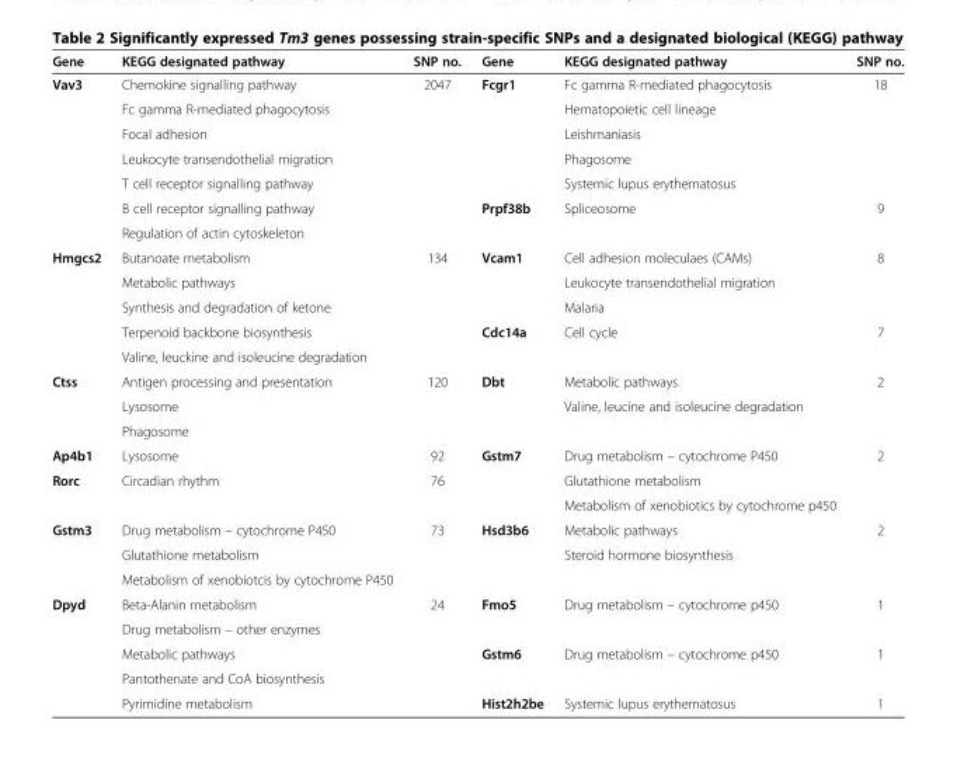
<table><thead><tr><td>Gene</td><td>KEGG designated pathway</td><td>SNP no.</td><td>Gene</td><td>KEGG designated pathway</td><td>SNP no.</td></tr></thead><tbody><tr><td rowspan="7">Vav3</td><td>Chemokine signalling pathway</td><td>2047</td><td>Fcgr1</td><td>Fc gamma R-mediated phagocytosis</td><td>18</td></tr><tr><td>Fc gamma R-mediated phagocytosis</td><td></td><td></td><td>Hematopoietic cell lineage</td><td></td></tr><tr><td>Focal adhesion</td><td></td><td></td><td>Leishmaniasis</td><td></td></tr><tr><td>Leukocyte transendothelial migration</td><td></td><td></td><td>Phagosome</td><td></td></tr><tr><td>T cell receptor signalling pathway</td><td></td><td></td><td>Systemic lupus erythematosus</td><td></td></tr><tr><td>B cell receptor signalling pathway</td><td></td><td>Prpf38b</td><td>Spliceosome</td><td>9</td></tr><tr><td>Regulation of actin cytoskeleton</td><td></td><td></td><td></td><td></td></tr><tr><td rowspan="5">Hmgcs2</td><td>Butanoate metabolism</td><td>134</td><td>Vcam1</td><td>Cell adhesion moleculaes (CAMs)</td><td>8</td></tr><tr><td>Metabolic pathways</td><td></td><td></td><td>Leukocyte transendothelial migration</td><td></td></tr><tr><td>Synthesis and degradation of ketone</td><td></td><td></td><td>Malaria</td><td></td></tr><tr><td>Terpenoid backbone biosynthesis</td><td></td><td>Cdc14a</td><td>Cell cycle</td><td>7</td></tr><tr><td>Valine, leuckine and isoleucine degradation</td><td></td><td></td><td></td><td></td></tr><tr><td rowspan="3">Ctss</td><td>Antigen processing and presentation</td><td>120</td><td>Dbt</td><td>Metabolic pathways</td><td>2</td></tr><tr><td>Lysosome</td><td></td><td></td><td>Valine, leucine and isoleucine degradation</td><td></td></tr><tr><td>Phagosome</td><td></td><td></td><td></td><td></td></tr><tr><td>Ap4b1</td><td>Lysosome</td><td>92</td><td>Gstm7</td><td>Drug metabolism – cytochrome P450</td><td>2</td></tr><tr><td rowspan="2">Rorc</td><td>Circadian rhythm</td><td>76</td><td></td><td>Glutathione metabolism</td><td></td></tr><tr><td></td><td></td><td></td><td>Metabolism of xenobiotics by cytochrome p450</td><td></td></tr><tr><td rowspan="3">Gstm3</td><td>Drug metabolism – cytochrome P450</td><td>73</td><td>Hsd3b6</td><td>Metabolic pathways</td><td>2</td></tr><tr><td>Glutathione metabolism</td><td></td><td></td><td>Steroid hormone biosynthesis</td><td></td></tr><tr><td>Metabolism of xenobiotcis by cytochrome P450</td><td></td><td></td><td></td><td></td></tr><tr><td rowspan="5">Dpyd</td><td>Beta-Alanin metabolism</td><td>24</td><td>Fmo5</td><td>Drug metabolism – cytochrome p450</td><td>1</td></tr><tr><td>Drug metabolism – other enzymes</td><td></td><td></td><td></td><td></td></tr><tr><td>Metabolic pathways</td><td></td><td>Gstm6</td><td>Drug metabolism – cytochrome p450</td><td>1</td></tr><tr><td>Pantothenate and CoA biosynthesis</td><td></td><td></td><td></td><td></td></tr><tr><td>Pyrimidine metabolism</td><td></td><td>Hist2h2be</td><td>Systemic lupus erythematosus</td><td>1</td></tr></tbody></table>